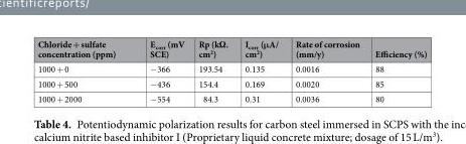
<table><thead><tr><td>Chloride + sulfate concentration (ppm)</td><td>E<sub>corr</sub> (mV SCE)</td><td>Rp (kΩ. cm<sup>2</sup>)</td><td>I<sub>corr</sub> (μA/ cm<sup>2</sup>)</td><td>Rate of corrosion (mm/y)</td><td>Efficiency (%)</td></tr></thead><tbody><tr><td>1000 + 0</td><td>−366</td><td>193.54</td><td>0.135</td><td>0.0016</td><td>88</td></tr><tr><td>1000 + 500</td><td>−436</td><td>154.4</td><td>0.169</td><td>0.0020</td><td>85</td></tr><tr><td>1000 + 2000</td><td>−554</td><td>84.3</td><td>0.31</td><td>0.0036</td><td>80</td></tr></tbody></table>